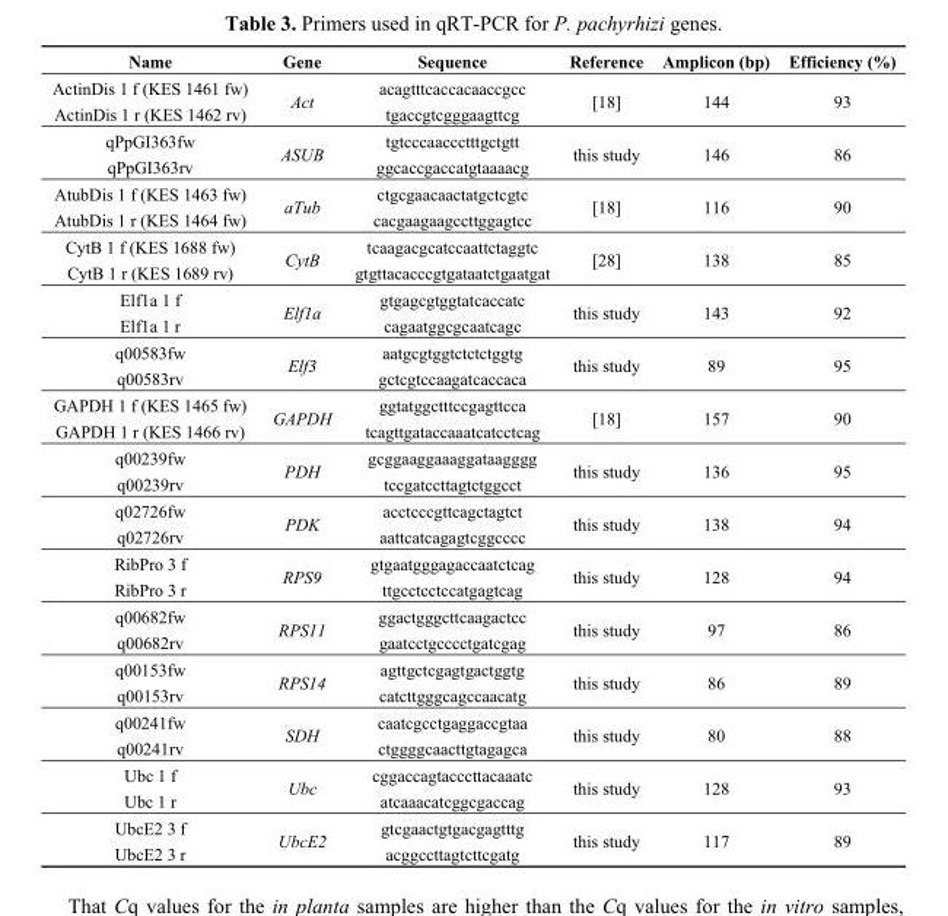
<table><thead><tr><td>Name</td><td>Gene</td><td>Sequence</td><td>Reference</td><td>Amplicon (bp)</td><td>Efficiency (%)</td></tr></thead><tbody><tr><td>ActinDis 1 f (KES 1461 fw)</td><td rowspan="2">Act</td><td>acagtttcaccacaaccgcc</td><td rowspan="2">[18]</td><td rowspan="2">144</td><td rowspan="2">93</td></tr><tr><td>ActinDis 1 r (KES 1462 rv)</td><td>tgaccgtcgggaagttcg</td></tr><tr><td>qPpGI363fw</td><td rowspan="2">ASUB</td><td>tgtcccaaccctttgctgtt</td><td rowspan="2">this study</td><td rowspan="2">146</td><td rowspan="2">86</td></tr><tr><td>qPpGI363rv</td><td>ggcaccgaccatgtaaaacg</td></tr><tr><td>AtubDis 1 f (KES 1463 fw)</td><td rowspan="2">aTub</td><td>ctgcgaacaactatgctcgtc</td><td rowspan="2">[18]</td><td rowspan="2">116</td><td rowspan="2">90</td></tr><tr><td>AtubDis 1 r (KES 1464 fw)</td><td>cacgaagaagccttggagtcc</td></tr><tr><td>CytB 1 f (KES 1688 fw)</td><td rowspan="2">CytB</td><td>tcaagacgcatccaattctaggtc</td><td rowspan="2">[28]</td><td rowspan="2">138</td><td rowspan="2">85</td></tr><tr><td>CytB 1 r (KES 1689 rv)</td><td>gtgttacacccgtgataatctgaatgat</td></tr><tr><td>Elf1a 1 f</td><td rowspan="2">Elf1a</td><td>gtgagcgtggtatcaccatc</td><td rowspan="2">this study</td><td rowspan="2">143</td><td rowspan="2">92</td></tr><tr><td>Elf1a 1 r</td><td>cagaatggcgcaatcagc</td></tr><tr><td>q00583fw</td><td rowspan="2">Elf3</td><td>aatgcgtggtctctctggtg</td><td rowspan="2">this study</td><td rowspan="2">89</td><td rowspan="2">95</td></tr><tr><td>q00583rv</td><td>gctcgtccaagatcaccaca</td></tr><tr><td>GAPDH 1 f (KES 1465 fw)</td><td rowspan="2">GAPDH</td><td>ggtatggctttccgagttcca</td><td rowspan="2">[18]</td><td rowspan="2">157</td><td rowspan="2">90</td></tr><tr><td>GAPDH 1 r (KES 1466 rv)</td><td>tcagttgataccaaatcatcctcag</td></tr><tr><td>q00239fw</td><td rowspan="2">PDH</td><td>gcggaaggaaaggataagggg</td><td rowspan="2">this study</td><td rowspan="2">136</td><td rowspan="2">95</td></tr><tr><td>q00239rv</td><td>tccgatccttagtctggcct</td></tr><tr><td>q02726fw</td><td rowspan="2">PDK</td><td>acctcccgttcagctagtct</td><td rowspan="2">this study</td><td rowspan="2">138</td><td rowspan="2">94</td></tr><tr><td>q02726rv</td><td>aattcatcagagtcggcccc</td></tr><tr><td>RibPro 3 f</td><td rowspan="2">RPS9</td><td>gtgaatgggagaccaatctcag</td><td rowspan="2">this study</td><td rowspan="2">128</td><td rowspan="2">94</td></tr><tr><td>RibPro 3 r</td><td>ttgcctcctccatgagtcag</td></tr><tr><td>q00682fw</td><td rowspan="2">RPS11</td><td>ggactgggcttcaagactcc</td><td rowspan="2">this study</td><td rowspan="2">97</td><td rowspan="2">86</td></tr><tr><td>q00682rv</td><td>gaatcctgcccctgatcgag</td></tr><tr><td>q00153fw</td><td rowspan="2">RPS14</td><td>agttgctcgagtgactggtg</td><td rowspan="2">this study</td><td rowspan="2">86</td><td rowspan="2">89</td></tr><tr><td>q00153rv</td><td>catcttgggcagccaacatg</td></tr><tr><td>q00241fw</td><td rowspan="2">SDH</td><td>caatcgcctgaggaccgtaa</td><td rowspan="2">this study</td><td rowspan="2">80</td><td rowspan="2">88</td></tr><tr><td>q00241rv</td><td>ctggggcaacttgtagagca</td></tr><tr><td>Ubc 1 f</td><td rowspan="2">Ubc</td><td>cggaccagtacccttacaaatc</td><td rowspan="2">this study</td><td rowspan="2">128</td><td rowspan="2">93</td></tr><tr><td>Ubc 1 r</td><td>atcaaacatcggcgaccag</td></tr><tr><td>UbcE2 3 f</td><td rowspan="2">UbcE2</td><td>gtcgaactgtgacgagtttg</td><td rowspan="2">this study</td><td rowspan="2">117</td><td rowspan="2">89</td></tr><tr><td>UbcE2 3 r</td><td>acggccttagtcttcgatg</td></tr></tbody></table>